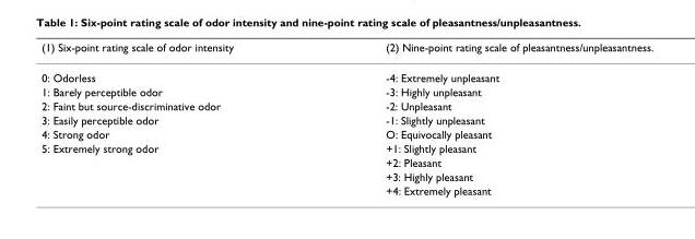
<table><thead><tr><td>(1) Six-point rating scale of odor intensity</td><td>(2) Nine-point rating scale of pleasantness/unpleasantness.</td></tr></thead><tbody><tr><td>0: Odorless</td><td>-4: Extremely unpleasant</td></tr><tr><td>1: Barely perceptible odor</td><td>-3: Highly unpleasant</td></tr><tr><td>2: Faint but source-discriminative odor</td><td>-2: Unpleasant</td></tr><tr><td>3: Easily perceptible odor</td><td>-1: Slightly unpleasant</td></tr><tr><td>4: Strong odor</td><td>O: Equivocally pleasant</td></tr><tr><td rowspan="4">5: Extremely strong odor</td><td>+1: Slightly pleasant</td></tr><tr><td>+2: Pleasant</td></tr><tr><td>+3: Highly pleasant</td></tr><tr><td>+4: Extremely pleasant</td></tr></tbody></table>